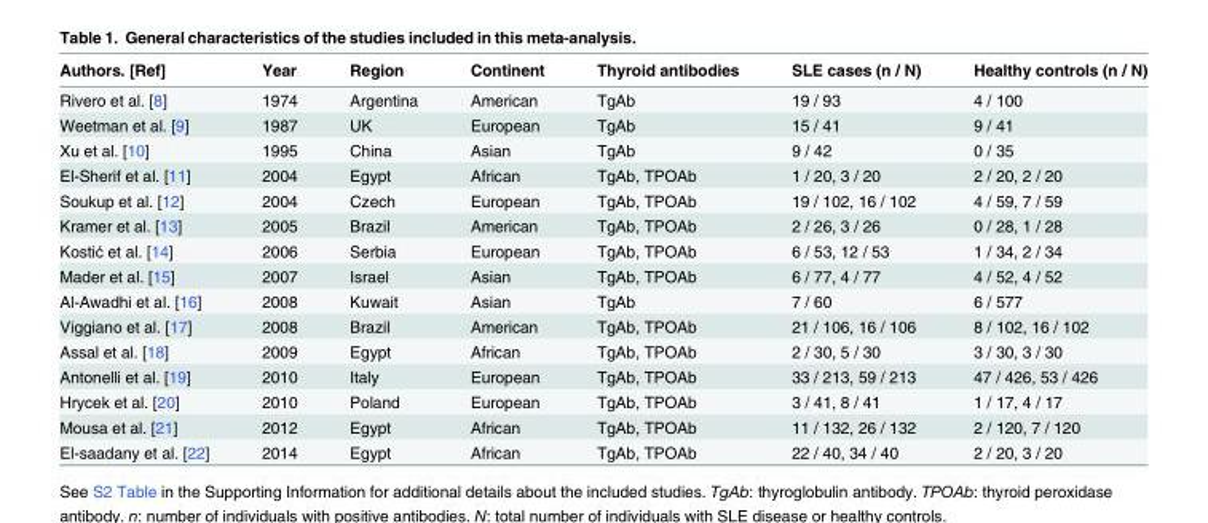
<table><thead><tr><td>Authors. [Ref]</td><td>Year</td><td>Region</td><td>Continent</td><td>Thyroid antibodies</td><td>SLE cases (n / N)</td><td>Healthy controls (n / N)</td></tr></thead><tbody><tr><td>Rivero et al. [8]</td><td>1974</td><td>Argentina</td><td>American</td><td>TgAb</td><td>19 / 93</td><td>4 / 100</td></tr><tr><td>Weetman et al. [9]</td><td>1987</td><td>UK</td><td>European</td><td>TgAb</td><td>15 / 41</td><td>9 / 41</td></tr><tr><td>Xu et al. [10]</td><td>1995</td><td>China</td><td>Asian</td><td>TgAb</td><td>9 / 42</td><td>0 / 35</td></tr><tr><td>El-Sherif et al. [11]</td><td>2004</td><td>Egypt</td><td>African</td><td>TgAb, TPOAb</td><td>1 / 20, 3 / 20</td><td>2 / 20, 2 / 20</td></tr><tr><td>Soukup et al. [12]</td><td>2004</td><td>Czech</td><td>European</td><td>TgAb, TPOAb</td><td>19 / 102, 16 / 102</td><td>4 / 59, 7 / 59</td></tr><tr><td>Kramer et al. [13]</td><td>2005</td><td>Brazil</td><td>American</td><td>TgAb, TPOAb</td><td>2 / 26, 3 / 26</td><td>0 / 28, 1 / 28</td></tr><tr><td>Kostić et al. [14]</td><td>2006</td><td>Serbia</td><td>European</td><td>TgAb, TPOAb</td><td>6 / 53, 12 / 53</td><td>1 / 34, 2 / 34</td></tr><tr><td>Mader et al. [15]</td><td>2007</td><td>Israel</td><td>Asian</td><td>TgAb, TPOAb</td><td>6 / 77, 4 / 77</td><td>4 / 52, 4 / 52</td></tr><tr><td>Al-Awadhi et al. [16]</td><td>2008</td><td>Kuwait</td><td>Asian</td><td>TgAb</td><td>7 / 60</td><td>6 / 577</td></tr><tr><td>Viggiano et al. [17]</td><td>2008</td><td>Brazil</td><td>American</td><td>TgAb, TPOAb</td><td>21 / 106, 16 / 106</td><td>8 / 102, 16 / 102</td></tr><tr><td>Assal et al. [18]</td><td>2009</td><td>Egypt</td><td>African</td><td>TgAb, TPOAb</td><td>2 / 30, 5 / 30</td><td>3 / 30, 3 / 30</td></tr><tr><td>Antonelli et al. [19]</td><td>2010</td><td>Italy</td><td>European</td><td>TgAb, TPOAb</td><td>33 / 213, 59 / 213</td><td>47 / 426, 53 / 426</td></tr><tr><td>Hrycek et al. [20]</td><td>2010</td><td>Poland</td><td>European</td><td>TgAb, TPOAb</td><td>3 / 41, 8 / 41</td><td>1 / 17, 4 / 17</td></tr><tr><td>Mousa et al. [21]</td><td>2012</td><td>Egypt</td><td>African</td><td>TgAb, TPOAb</td><td>11 / 132, 26 / 132</td><td>2 / 120, 7 / 120</td></tr><tr><td>El-saadany et al. [22]</td><td>2014</td><td>Egypt</td><td>African</td><td>TgAb, TPOAb</td><td>22 / 40, 34 / 40</td><td>2 / 20, 3 / 20</td></tr></tbody></table>